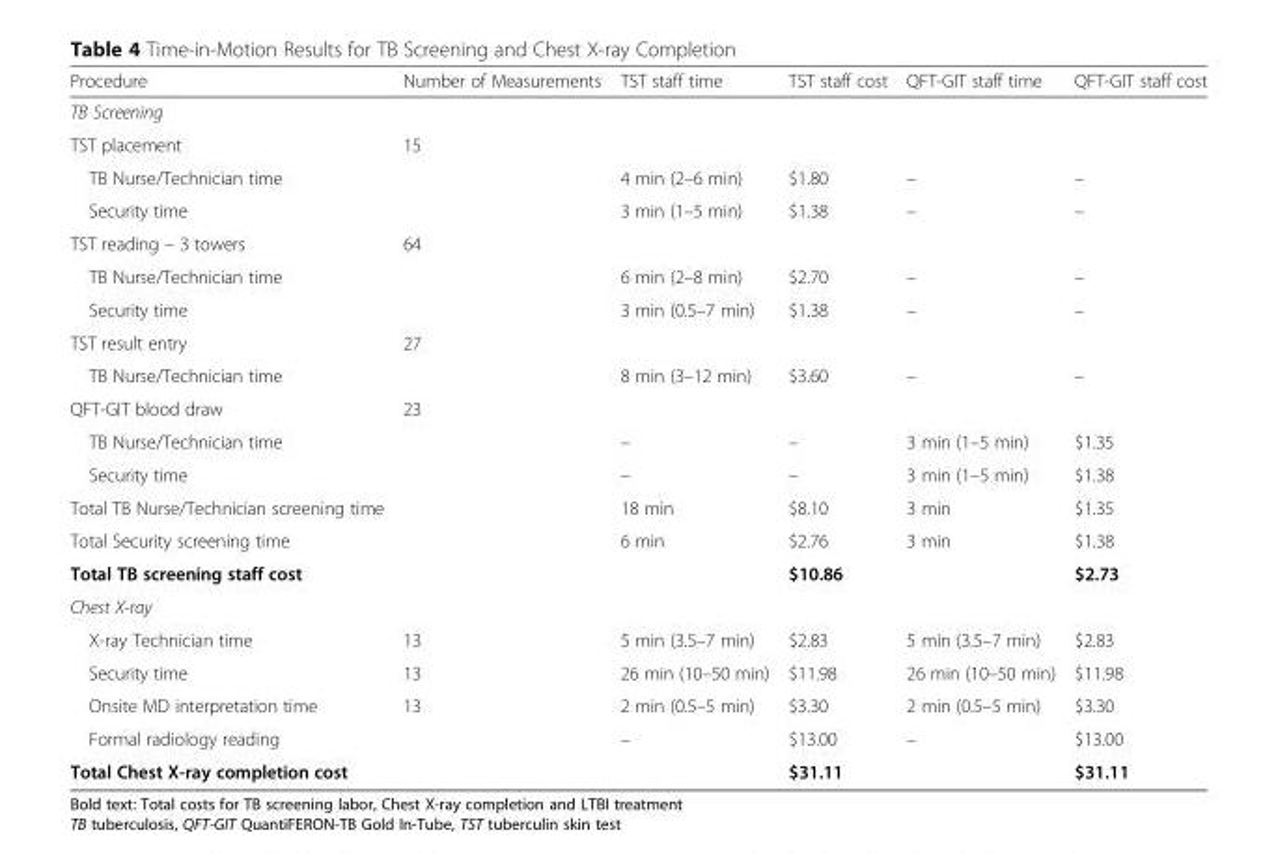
<table><thead><tr><td>Procedure</td><td>Number of Measurements</td><td>TST staff time</td><td>TST staff cost</td><td>QFT-GIT staff time</td><td>QFT-GIT staff cost</td></tr></thead><tbody><tr><td colspan="6">TB Screening</td></tr><tr><td>TST placement</td><td>15</td><td></td><td></td><td></td><td></td></tr><tr><td>TB Nurse/Technician time</td><td></td><td>4 min (2–6 min)</td><td>$1.80</td><td>–</td><td>–</td></tr><tr><td>Security time</td><td></td><td>3 min (1–5 min)</td><td>$1.38</td><td>–</td><td>–</td></tr><tr><td>TST reading – 3 towers</td><td>64</td><td></td><td></td><td></td><td></td></tr><tr><td>TB Nurse/Technician time</td><td></td><td>6 min (2–8 min)</td><td>$2.70</td><td>–</td><td>–</td></tr><tr><td>Security time</td><td></td><td>3 min (0.5–7 min)</td><td>$1.38</td><td>–</td><td>–</td></tr><tr><td>TST result entry</td><td>27</td><td></td><td></td><td></td><td></td></tr><tr><td>TB Nurse/Technician time</td><td></td><td>8 min (3–12 min)</td><td>$3.60</td><td>–</td><td>–</td></tr><tr><td>QFT-GIT blood draw</td><td>23</td><td></td><td></td><td></td><td></td></tr><tr><td>TB Nurse/Technician time</td><td></td><td>–</td><td>–</td><td>3 min (1–5 min)</td><td>$1.35</td></tr><tr><td>Security time</td><td></td><td>–</td><td>–</td><td>3 min (1–5 min)</td><td>$1.38</td></tr><tr><td>Total TB Nurse/Technician screening time</td><td></td><td>18 min</td><td>$8.10</td><td>3 min</td><td>$1.35</td></tr><tr><td>Total Security screening time</td><td></td><td>6 min</td><td>$2.76</td><td>3 min</td><td>$1.38</td></tr><tr><td>Total TB screening staff cost</td><td></td><td></td><td>$10.86</td><td></td><td>$2.73</td></tr><tr><td colspan="6">Chest X-ray</td></tr><tr><td>X-ray Technician time</td><td>13</td><td>5 min (3.5–7 min)</td><td>$2.83</td><td>5 min (3.5–7 min)</td><td>$2.83</td></tr><tr><td>Security time</td><td>13</td><td>26 min (10–50 min)</td><td>$11.98</td><td>26 min (10–50 min)</td><td>$11.98</td></tr><tr><td>Onsite MD interpretation time</td><td>13</td><td>2 min (0.5–5 min)</td><td>$3.30</td><td>2 min (0.5–5 min)</td><td>$3.30</td></tr><tr><td>Formal radiology reading</td><td></td><td>–</td><td>$13.00</td><td>–</td><td>$13.00</td></tr><tr><td>Total Chest X-ray completion cost</td><td></td><td></td><td>$31.11</td><td></td><td>$31.11</td></tr></tbody></table>